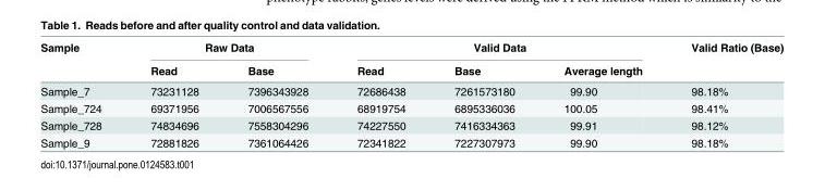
<table><thead><tr><td rowspan="2">Sample</td><td colspan="2">Raw Data</td><td colspan="3">Valid Data</td><td rowspan="2">Valid Ratio (Base)</td></tr><tr><td>Read</td><td>Base</td><td>Read</td><td>Base</td><td>Average length</td></tr></thead><tbody><tr><td>Sample_7</td><td>73231128</td><td>7396343928</td><td>72686438</td><td>7261573180</td><td>99.90</td><td>98.18%</td></tr><tr><td>Sample_724</td><td>69371956</td><td>7006567556</td><td>68919754</td><td>6895336036</td><td>100.05</td><td>98.41%</td></tr><tr><td>Sample_728</td><td>74834696</td><td>7558304296</td><td>74227550</td><td>7416334363</td><td>99.91</td><td>98.12%</td></tr><tr><td>Sample_9</td><td>72881826</td><td>7361064426</td><td>72341822</td><td>7227307973</td><td>99.90</td><td>98.18%</td></tr></tbody></table>